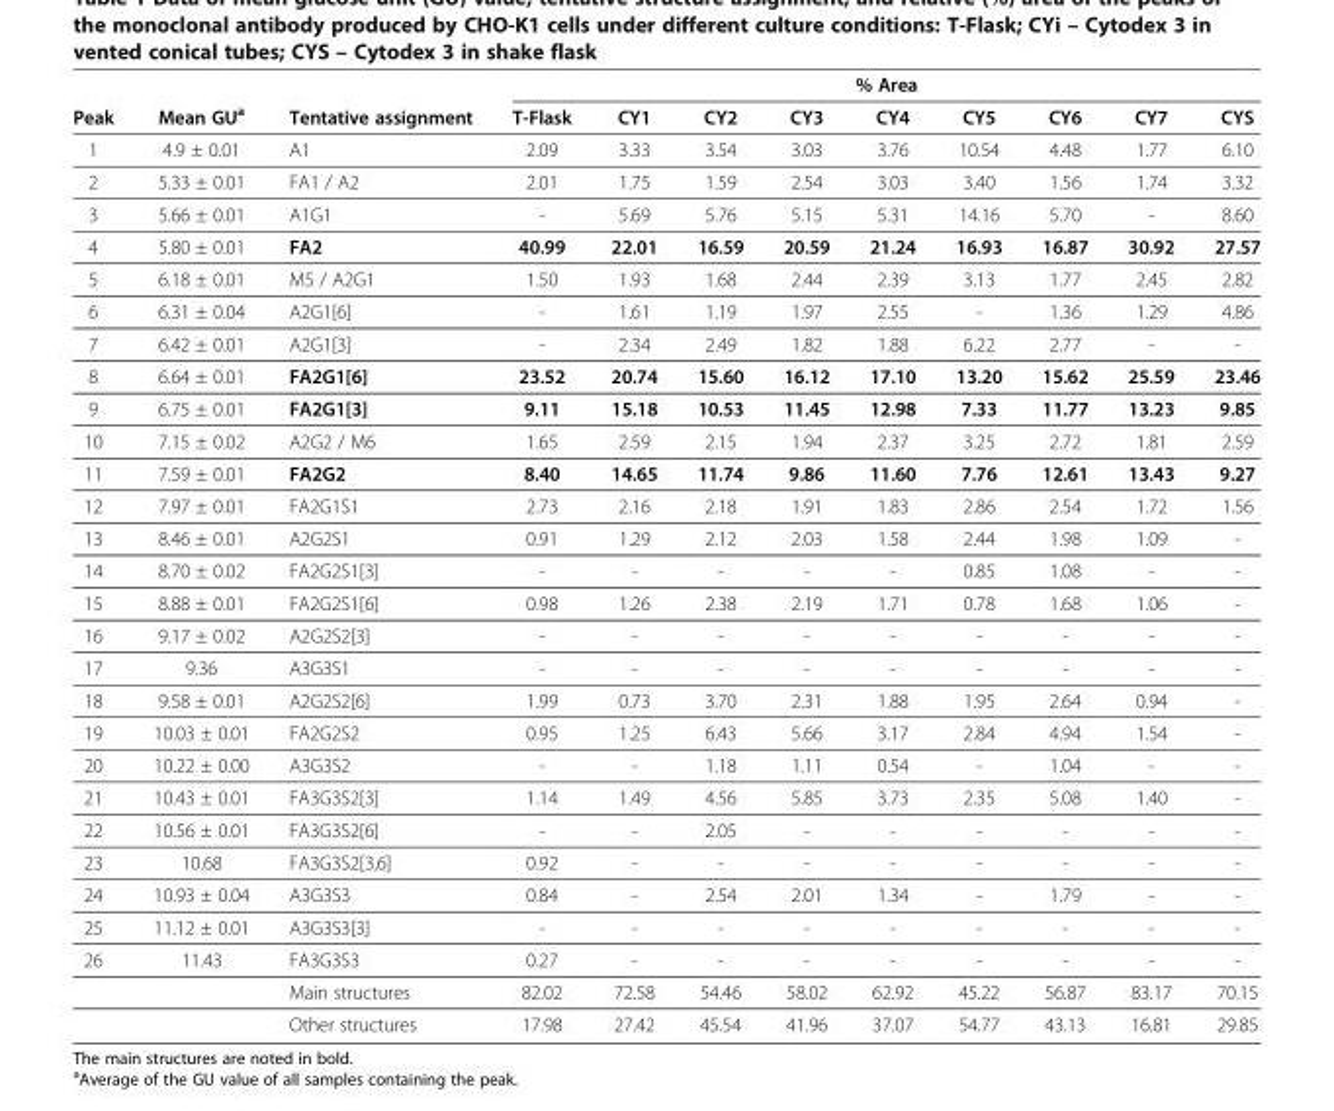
<table><thead><tr><td rowspan="2">Peak</td><td rowspan="2">Mean GU<sup>a</sup></td><td rowspan="2">Tentative assignment</td><td colspan="9">% Area</td></tr><tr><td>T-Flask</td><td>CY1</td><td>CY2</td><td>CY3</td><td>CY4</td><td>CY5</td><td>CY6</td><td>CY7</td><td>CYS</td></tr></thead><tbody><tr><td>1</td><td>4.9 ± 0.01</td><td>A1</td><td>2.09</td><td>3.33</td><td>3.54</td><td>3.03</td><td>3.76</td><td>10.54</td><td>4.48</td><td>1.77</td><td>6.10</td></tr><tr><td>2</td><td>5.33 ± 0.01</td><td>FA1 / A2</td><td>2.01</td><td>1.75</td><td>1.59</td><td>2.54</td><td>3.03</td><td>3.40</td><td>1.56</td><td>1.74</td><td>3.32</td></tr><tr><td>3</td><td>5.66 ± 0.01</td><td>A1G1</td><td>-</td><td>5.69</td><td>5.76</td><td>5.15</td><td>5.31</td><td>14.16</td><td>5.70</td><td>-</td><td>8.60</td></tr><tr><td>4</td><td>5.80 ± 0.01</td><td>FA2</td><td>40.99</td><td>22.01</td><td>16.59</td><td>20.59</td><td>21.24</td><td>16.93</td><td>16.87</td><td>30.92</td><td>27.57</td></tr><tr><td>5</td><td>6.18 ± 0.01</td><td>M5 / A2G1</td><td>1.50</td><td>1.93</td><td>1.68</td><td>2.44</td><td>2.39</td><td>3.13</td><td>1.77</td><td>2.45</td><td>2.82</td></tr><tr><td>6</td><td>6.31 ± 0.04</td><td>A2G1[6]</td><td>-</td><td>1.61</td><td>1.19</td><td>1.97</td><td>2.55</td><td>-</td><td>1.36</td><td>1.29</td><td>4.86</td></tr><tr><td>7</td><td>6.42 ± 0.01</td><td>A2G1[3]</td><td>-</td><td>2.34</td><td>2.49</td><td>1.82</td><td>1.88</td><td>6.22</td><td>2.77</td><td>-</td><td>-</td></tr><tr><td>8</td><td>6.64 ± 0.01</td><td>FA2G1[6]</td><td>23.52</td><td>20.74</td><td>15.60</td><td>16.12</td><td>17.10</td><td>13.20</td><td>15.62</td><td>25.59</td><td>23.46</td></tr><tr><td>9</td><td>6.75 ± 0.01</td><td>FA2G1[3]</td><td>9.11</td><td>15.18</td><td>10.53</td><td>11.45</td><td>12.98</td><td>7.33</td><td>11.77</td><td>13.23</td><td>9.85</td></tr><tr><td>10</td><td>7.15 ± 0.02</td><td>A2G2 / M6</td><td>1.65</td><td>2.59</td><td>2.15</td><td>1.94</td><td>2.37</td><td>3.25</td><td>2.72</td><td>1.81</td><td>2.59</td></tr><tr><td>11</td><td>7.59 ± 0.01</td><td>FA2G2</td><td>8.40</td><td>14.65</td><td>11.74</td><td>9.86</td><td>11.60</td><td>7.76</td><td>12.61</td><td>13.43</td><td>9.27</td></tr><tr><td>12</td><td>7.97 ± 0.01</td><td>FA2G1S1</td><td>2.73</td><td>2.16</td><td>2.18</td><td>1.91</td><td>1.83</td><td>2.86</td><td>2.54</td><td>1.72</td><td>1.56</td></tr><tr><td>13</td><td>8.46 ± 0.01</td><td>A2G2S1</td><td>0.91</td><td>1.29</td><td>2.12</td><td>2.03</td><td>1.58</td><td>2.44</td><td>1.98</td><td>1.09</td><td>-</td></tr><tr><td>14</td><td>8.70 ± 0.02</td><td>FA2G2S1[3]</td><td>-</td><td>-</td><td>-</td><td>-</td><td>-</td><td>0.85</td><td>1.08</td><td>-</td><td>-</td></tr><tr><td>15</td><td>8.88 ± 0.01</td><td>FA2G2S1[6]</td><td>0.98</td><td>1.26</td><td>2.38</td><td>2.19</td><td>1.71</td><td>0.78</td><td>1.68</td><td>1.06</td><td>-</td></tr><tr><td>16</td><td>9.17 ± 0.02</td><td>A2G2S2[3]</td><td>-</td><td>-</td><td>-</td><td>-</td><td>-</td><td>-</td><td>-</td><td>-</td><td>-</td></tr><tr><td>17</td><td>9.36</td><td>A3G3S1</td><td>-</td><td>-</td><td>-</td><td>-</td><td>-</td><td>-</td><td>-</td><td>-</td><td>-</td></tr><tr><td>18</td><td>9.58 ± 0.01</td><td>A2G2S2[6]</td><td>1.99</td><td>0.73</td><td>3.70</td><td>2.31</td><td>1.88</td><td>1.95</td><td>2.64</td><td>0.94</td><td>-</td></tr><tr><td>19</td><td>10.03 ± 0.01</td><td>FA2G2S2</td><td>0.95</td><td>1.25</td><td>6.43</td><td>5.66</td><td>3.17</td><td>2.84</td><td>4.94</td><td>1.54</td><td>-</td></tr><tr><td>20</td><td>10.22 ± 0.00</td><td>A3G3S2</td><td>-</td><td>-</td><td>1.18</td><td>1.11</td><td>0.54</td><td>-</td><td>1.04</td><td>-</td><td>-</td></tr><tr><td>21</td><td>10.43 ± 0.01</td><td>FA3G3S2[3]</td><td>1.14</td><td>1.49</td><td>4.56</td><td>5.85</td><td>3.73</td><td>2.35</td><td>5.08</td><td>1.40</td><td>-</td></tr><tr><td>22</td><td>10.56 ± 0.01</td><td>FA3G3S2[6]</td><td>-</td><td>-</td><td>2.05</td><td>-</td><td>-</td><td>-</td><td>-</td><td>-</td><td>-</td></tr><tr><td>23</td><td>10.68</td><td>FA3G3S2[3,6]</td><td>0.92</td><td>-</td><td>-</td><td>-</td><td>-</td><td>-</td><td>-</td><td>-</td><td>-</td></tr><tr><td>24</td><td>10.93 ± 0.04</td><td>A3G3S3</td><td>0.84</td><td>-</td><td>2.54</td><td>2.01</td><td>1.34</td><td>-</td><td>1.79</td><td>-</td><td>-</td></tr><tr><td>25</td><td>11.12 ± 0.01</td><td>A3G3S3[3]</td><td>-</td><td>-</td><td>-</td><td>-</td><td>-</td><td>-</td><td>-</td><td>-</td><td>-</td></tr><tr><td rowspan="3">26</td><td>11.43</td><td>FA3G3S3</td><td>0.27</td><td>-</td><td>-</td><td>-</td><td>-</td><td>-</td><td>-</td><td>-</td><td>-</td></tr><tr><td></td><td>Main structures</td><td>82.02</td><td>72.58</td><td>54.46</td><td>58.02</td><td>62.92</td><td>45.22</td><td>56.87</td><td>83.17</td><td>70.15</td></tr><tr><td></td><td>Other structures</td><td>17.98</td><td>27.42</td><td>45.54</td><td>41.96</td><td>37.07</td><td>54.77</td><td>43.13</td><td>16.81</td><td>29.85</td></tr></tbody></table>